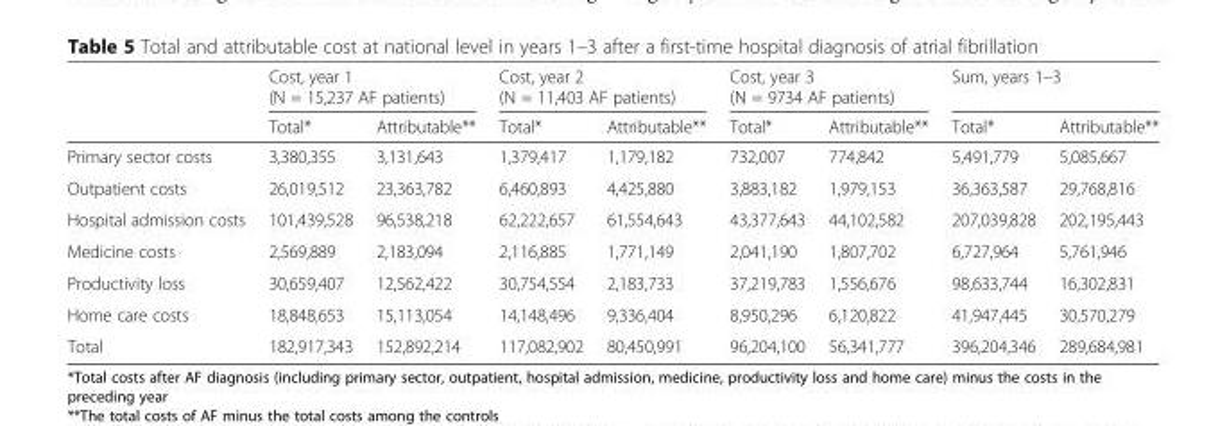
<table><thead><tr><td rowspan="2"></td><td colspan="2">Cost, year 1 (N = 15,237 AF patients)</td><td colspan="2">Cost, year 2 (N = 11,403 AF patients)</td><td colspan="2">Cost, year 3 (N = 9734 AF patients)</td><td colspan="2">Sum, years 1–3</td></tr><tr><td>Total*</td><td>Attributable**</td><td>Total*</td><td>Attributable**</td><td>Total*</td><td>Attributable**</td><td>Total*</td><td>Attributable**</td></tr></thead><tbody><tr><td>Primary sector costs</td><td>3,380,355</td><td>3,131,643</td><td>1,379,417</td><td>1,179,182</td><td>732,007</td><td>774,842</td><td>5,491,779</td><td>5,085,667</td></tr><tr><td>Outpatient costs</td><td>26,019,512</td><td>23,363,782</td><td>6,460,893</td><td>4,425,880</td><td>3,883,182</td><td>1,979,153</td><td>36,363,587</td><td>29,768,816</td></tr><tr><td>Hospital admission costs</td><td>101,439,528</td><td>96,538,218</td><td>62,222,657</td><td>61,554,643</td><td>43,377,643</td><td>44,102,582</td><td>207,039,828</td><td>202,195,443</td></tr><tr><td>Medicine costs</td><td>2,569,889</td><td>2,183,094</td><td>2,116,885</td><td>1,771,149</td><td>2,041,190</td><td>1,807,702</td><td>6,727,964</td><td>5,761,946</td></tr><tr><td>Productivity loss</td><td>30,659,407</td><td>12,562,422</td><td>30,754,554</td><td>2,183,733</td><td>37,219,783</td><td>1,556,676</td><td>98,633,744</td><td>16,302,831</td></tr><tr><td>Home care costs</td><td>18,848,653</td><td>15,113,054</td><td>14,148,496</td><td>9,336,404</td><td>8,950,296</td><td>6,120,822</td><td>41,947,445</td><td>30,570,279</td></tr><tr><td>Total</td><td>182,917,343</td><td>152,892,214</td><td>117,082,902</td><td>80,450,991</td><td>96,204,100</td><td>56,341,777</td><td>396,204,346</td><td>289,684,981</td></tr></tbody></table>